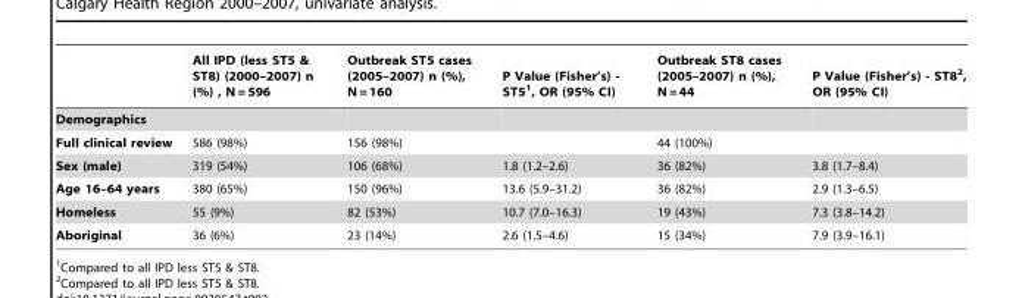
<table><thead><tr><td></td><td>All IPD (less ST5 &amp; ST8) (2000–2007) n (%) , N = 596</td><td>Outbreak ST5 cases (2005–2007) n (%), N = 160</td><td>P Value (Fisher’s) - ST5<sup>1</sup>, OR (95% CI)</td><td>Outbreak ST8 cases (2005–2007) n (%), N = 44</td><td>P Value (Fisher’s) - ST8<sup>2</sup>, OR (95% CI)</td></tr></thead><tbody><tr><td colspan="6">Demographics</td></tr><tr><td>Full clinical review</td><td>586 (98%)</td><td>156 (98%)</td><td></td><td>44 (100%)</td><td></td></tr><tr><td>Sex (male)</td><td>319 (54%)</td><td>106 (68%)</td><td>1.8 (1.2–2.6)</td><td>36 (82%)</td><td>3.8 (1.7–8.4)</td></tr><tr><td>Age 16–64 years</td><td>380 (65%)</td><td>150 (96%)</td><td>13.6 (5.9–31.2)</td><td>36 (82%)</td><td>2.9 (1.3–6.5)</td></tr><tr><td>Homeless</td><td>55 (9%)</td><td>82 (53%)</td><td>10.7 (7.0–16.3)</td><td>19 (43%)</td><td>7.3 (3.8–14.2)</td></tr><tr><td>Aboriginal</td><td>36 (6%)</td><td>23 (14%)</td><td>2.6 (1.5–4.6)</td><td>15 (34%)</td><td>7.9 (3.9–16.1)</td></tr></tbody></table>